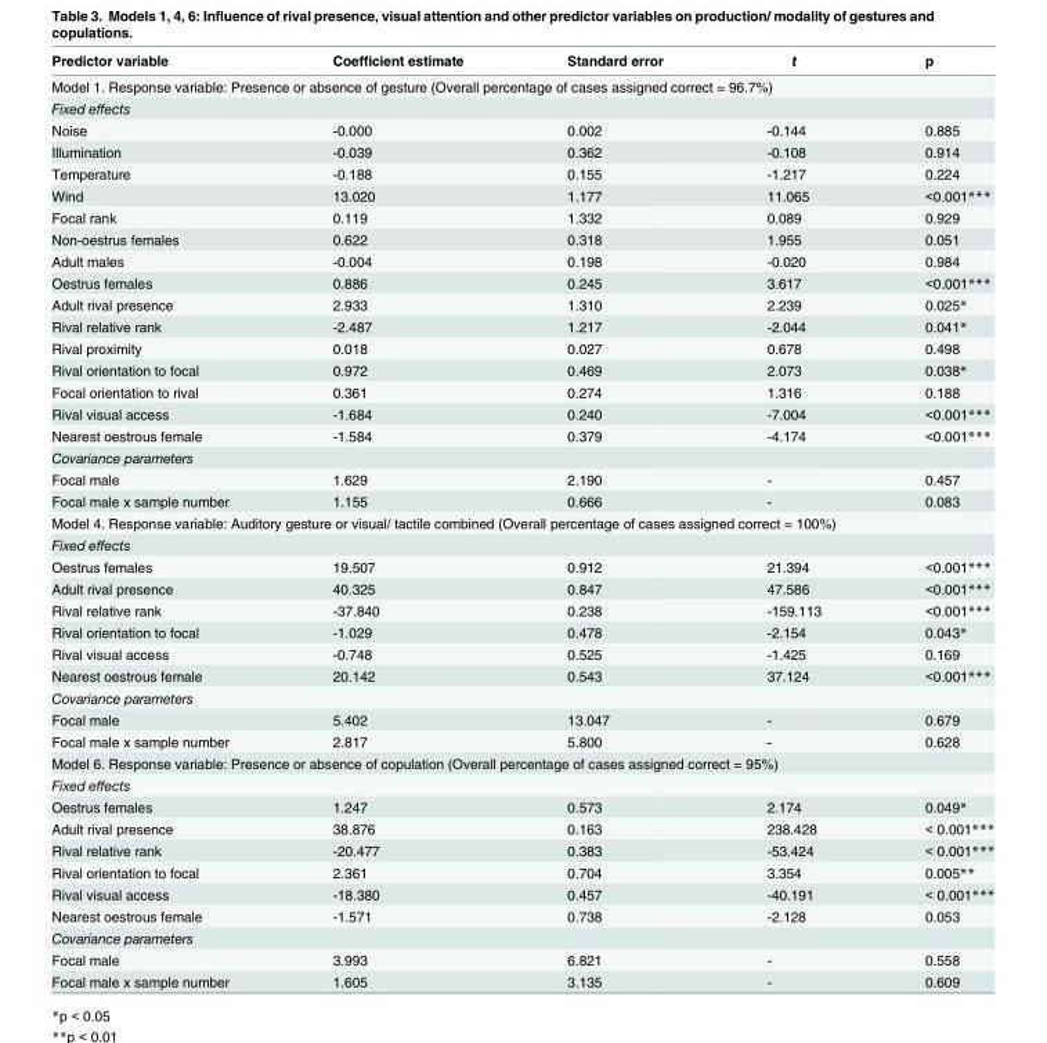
<table><thead><tr><td>Predictor variable</td><td>Coefficient estimate</td><td>Standard error</td><td>t</td><td>p</td></tr></thead><tbody><tr><td colspan="5">Model 1. Response variable: Presence or absence of gesture (Overall percentage of cases assigned correct = 96.7%)</td></tr><tr><td colspan="5">Fixed effects</td></tr><tr><td>Noise</td><td>-0.000</td><td>0.002</td><td>-0.144</td><td>0.885</td></tr><tr><td>Illumination</td><td>-0.039</td><td>0.362</td><td>-0.108</td><td>0.914</td></tr><tr><td>Temperature</td><td>-0.188</td><td>0.155</td><td>-1.217</td><td>0.224</td></tr><tr><td>Wind</td><td>13.020</td><td>1.177</td><td>11.065</td><td>&lt;0.001***</td></tr><tr><td>Focal rank</td><td>0.119</td><td>1.332</td><td>0.089</td><td>0.929</td></tr><tr><td>Non-oestrus females</td><td>0.622</td><td>0.318</td><td>1.955</td><td>0.051</td></tr><tr><td>Adult males</td><td>-0.004</td><td>0.198</td><td>-0.020</td><td>0.984</td></tr><tr><td>Oestrus females</td><td>0.886</td><td>0.245</td><td>3.617</td><td>&lt;0.001***</td></tr><tr><td>Adult rival presence</td><td>2.933</td><td>1.310</td><td>2.239</td><td>0.025*</td></tr><tr><td>Rival relative rank</td><td>-2.487</td><td>1.217</td><td>-2.044</td><td>0.041*</td></tr><tr><td>Rival proximity</td><td>0.018</td><td>0.027</td><td>0.678</td><td>0.498</td></tr><tr><td>Rival orientation to focal</td><td>0.972</td><td>0.469</td><td>2.073</td><td>0.038*</td></tr><tr><td>Focal orientation to rival</td><td>0.361</td><td>0.274</td><td>1.316</td><td>0.188</td></tr><tr><td>Rival visual access</td><td>-1.684</td><td>0.240</td><td>-7.004</td><td>&lt;0.001***</td></tr><tr><td>Nearest oestrous female</td><td>-1.584</td><td>0.379</td><td>-4.174</td><td>&lt;0.001***</td></tr><tr><td colspan="5">Covariance parameters</td></tr><tr><td>Focal male</td><td>1.629</td><td>2.190</td><td>-</td><td>0.457</td></tr><tr><td>Focal male x sample number</td><td>1.155</td><td>0.666</td><td>-</td><td>0.083</td></tr><tr><td colspan="5">Model 4. Response variable: Auditory gesture or visual/ tactile combined (Overall percentage of cases assigned correct = 100%)</td></tr><tr><td colspan="5">Fixed effects</td></tr><tr><td>Oestrus females</td><td>19.507</td><td>0.912</td><td>21.394</td><td>&lt;0.001***</td></tr><tr><td>Adult rival presence</td><td>40.325</td><td>0.847</td><td>47.586</td><td>&lt;0.001***</td></tr><tr><td>Rival relative rank</td><td>-37.840</td><td>0.238</td><td>-159.113</td><td>&lt;0.001***</td></tr><tr><td>Rival orientation to focal</td><td>-1.029</td><td>0.478</td><td>-2.154</td><td>0.043*</td></tr><tr><td>Rival visual access</td><td>-0.748</td><td>0.525</td><td>-1.425</td><td>0.169</td></tr><tr><td>Nearest oestrous female</td><td>20.142</td><td>0.543</td><td>37.124</td><td>&lt;0.001***</td></tr><tr><td colspan="5">Covariance parameters</td></tr><tr><td>Focal male</td><td>5.402</td><td>13.047</td><td>-</td><td>0.679</td></tr><tr><td>Focal male x sample number</td><td>2.817</td><td>5.800</td><td>-</td><td>0.628</td></tr><tr><td colspan="5">Model 6. Response variable: Presence or absence of copulation (Overall percentage of cases assigned correct = 95%)</td></tr><tr><td colspan="5">Fixed effects</td></tr><tr><td>Oestrus females</td><td>1.247</td><td>0.573</td><td>2.174</td><td>0.049*</td></tr><tr><td>Adult rival presence</td><td>38.876</td><td>0.163</td><td>238.428</td><td>&lt; 0.001***</td></tr><tr><td>Rival relative rank</td><td>-20.477</td><td>0.383</td><td>-53.424</td><td>&lt; 0.001***</td></tr><tr><td>Rival orientation to focal</td><td>2.361</td><td>0.704</td><td>3.354</td><td>0.005**</td></tr><tr><td>Rival visual access</td><td>-18.380</td><td>0.457</td><td>-40.191</td><td>&lt; 0.001***</td></tr><tr><td>Nearest oestrous female</td><td>-1.571</td><td>0.738</td><td>-2.128</td><td>0.053</td></tr><tr><td colspan="5">Covariance parameters</td></tr><tr><td>Focal male</td><td>3.993</td><td>6.821</td><td>-</td><td>0.558</td></tr><tr><td>Focal male x sample number</td><td>1.605</td><td>3.135</td><td>-</td><td>0.609</td></tr></tbody></table>